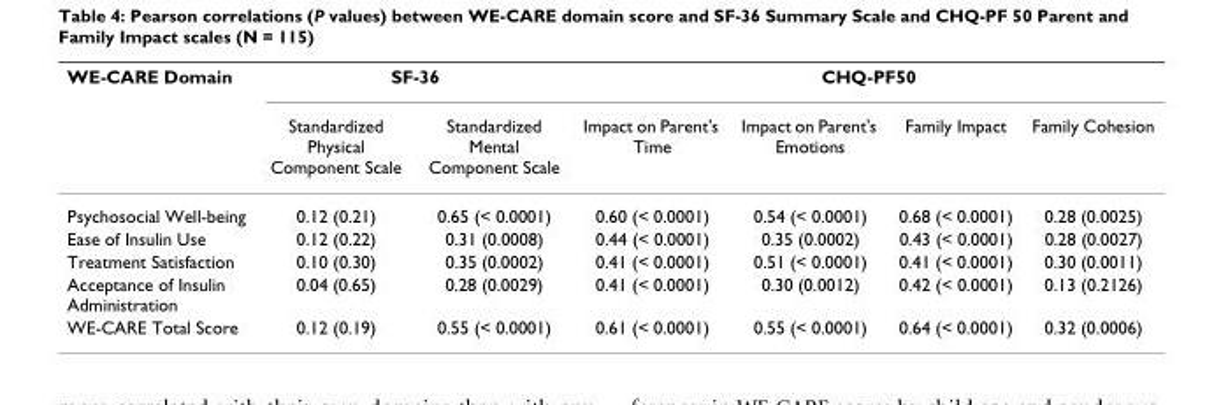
<table><thead><tr><td rowspan="2">WE-CARE Domain</td><td colspan="2">SF-36</td><td colspan="4">CHQ-PF50</td></tr><tr><td>Standardized Physical Component Scale</td><td>Standardized Mental Component Scale</td><td>Impact on Parent&#x27;s Time</td><td>Impact on Parent&#x27;s Emotions</td><td>Family Impact</td><td>Family Cohesion</td></tr></thead><tbody><tr><td>Psychosocial Well-being</td><td>0.12 (0.21)</td><td>0.65 (&lt; 0.0001)</td><td>0.60 (&lt; 0.0001)</td><td>0.54 (&lt; 0.0001)</td><td>0.68 (&lt; 0.0001)</td><td>0.28 (0.0025)</td></tr><tr><td>Ease of Insulin Use</td><td>0.12 (0.22)</td><td>0.31 (0.0008)</td><td>0.44 (&lt; 0.0001)</td><td>0.35 (0.0002)</td><td>0.43 (&lt; 0.0001)</td><td>0.28 (0.0027)</td></tr><tr><td>Treatment Satisfaction</td><td>0.10 (0.30)</td><td>0.35 (0.0002)</td><td>0.41 (&lt; 0.0001)</td><td>0.51 (&lt; 0.0001)</td><td>0.41 (&lt; 0.0001)</td><td>0.30 (0.0011)</td></tr><tr><td>Acceptance of Insulin Administration</td><td>0.04 (0.65)</td><td>0.28 (0.0029)</td><td>0.41 (&lt; 0.0001)</td><td>0.30 (0.0012)</td><td>0.42 (&lt; 0.0001)</td><td>0.13 (0.2126)</td></tr><tr><td>WE-CARE Total Score</td><td>0.12 (0.19)</td><td>0.55 (&lt; 0.0001)</td><td>0.61 (&lt; 0.0001)</td><td>0.55 (&lt; 0.0001)</td><td>0.64 (&lt; 0.0001)</td><td>0.32 (0.0006)</td></tr></tbody></table>